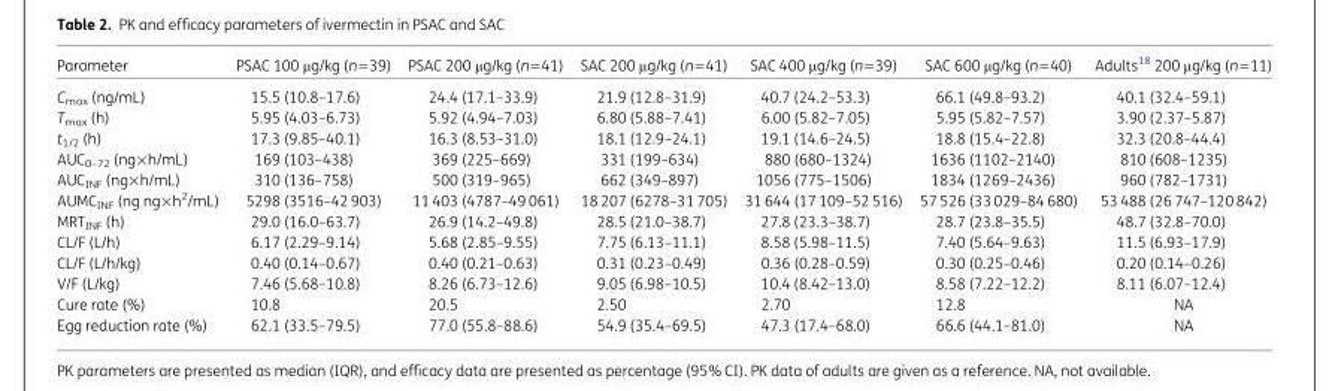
<table><thead><tr><td>Parameter</td><td>PSAC 100 μg/kg (n=39)</td><td>PSAC 200 μg/kg (n=41)</td><td>SAC 200 μg/kg (n=41)</td><td>SAC 400 μg/kg (n=39)</td><td>SAC 600 μg/kg (n=40)</td><td>Adults<sup>18</sup> 200 μg/kg (n=11)</td></tr></thead><tbody><tr><td>C<sub>max</sub> (ng/mL)</td><td>15.5 (10.8–17.6)</td><td>24.4 (17.1–33.9)</td><td>21.9 (12.8–31.9)</td><td>40.7 (24.2–53.3)</td><td>66.1 (49.8–93.2)</td><td>40.1 (32.4–59.1)</td></tr><tr><td>T<sub>max</sub> (h)</td><td>5.95 (4.03–6.73)</td><td>5.92 (4.94–7.03)</td><td>6.80 (5.88–7.41)</td><td>6.00 (5.82–7.05)</td><td>5.95 (5.82–7.57)</td><td>3.90 (2.37–5.87)</td></tr><tr><td>t<sub>1/2</sub> (h)</td><td>17.3 (9.85–40.1)</td><td>16.3 (8.53–31.0)</td><td>18.1 (12.9–24.1)</td><td>19.1 (14.6–24.5)</td><td>18.8 (15.4–22.8)</td><td>32.3 (20.8–44.4)</td></tr><tr><td>AUC<sub>0–72</sub> (ng×h/mL)</td><td>169 (103–438)</td><td>369 (225–669)</td><td>331 (199–634)</td><td>880 (680–1324)</td><td>1636 (1102–2140)</td><td>810 (608–1235)</td></tr><tr><td>AUC<sub>INF</sub> (ng×h/mL)</td><td>310 (136–758)</td><td>500 (319–965)</td><td>662 (349–897)</td><td>1056 (775–1506)</td><td>1834 (1269–2436)</td><td>960 (782–1731)</td></tr><tr><td>AUMC<sub>INF</sub> (ng ng×h<sup>2</sup>/mL)</td><td>5298 (3516–42 903)</td><td>11 403 (4787–49 061)</td><td>18 207 (6278–31 705)</td><td>31 644 (17 109–52 516)</td><td>57 526 (33 029–84 680)</td><td>53 488 (26 747–120 842)</td></tr><tr><td>MRT<sub>INF</sub> (h)</td><td>29.0 (16.0–63.7)</td><td>26.9 (14.2–49.8)</td><td>28.5 (21.0–38.7)</td><td>27.8 (23.3–38.7)</td><td>28.7 (23.8–35.5)</td><td>48.7 (32.8–70.0)</td></tr><tr><td>CL/F (L/h)</td><td>6.17 (2.29–9.14)</td><td>5.68 (2.85–9.55)</td><td>7.75 (6.13–11.1)</td><td>8.58 (5.98–11.5)</td><td>7.40 (5.64–9.63)</td><td>11.5 (6.93–17.9)</td></tr><tr><td>CL/F (L/h/kg)</td><td>0.40 (0.14–0.67)</td><td>0.40 (0.21–0.63)</td><td>0.31 (0.23–0.49)</td><td>0.36 (0.28–0.59)</td><td>0.30 (0.25–0.46)</td><td>0.20 (0.14–0.26)</td></tr><tr><td>V/F (L/kg)</td><td>7.46 (5.68–10.8)</td><td>8.26 (6.73–12.6)</td><td>9.05 (6.98–10.5)</td><td>10.4 (8.42–13.0)</td><td>8.58 (7.22–12.2)</td><td>8.11 (6.07–12.4)</td></tr><tr><td>Cure rate (%)</td><td>10.8</td><td>20.5</td><td>2.50</td><td>2.70</td><td>12.8</td><td>NA</td></tr><tr><td>Egg reduction rate (%)</td><td>62.1 (33.5–79.5)</td><td>77.0 (55.8–88.6)</td><td>54.9 (35.4–69.5)</td><td>47.3 (17.4–68.0)</td><td>66.6 (44.1–81.0)</td><td>NA</td></tr></tbody></table>